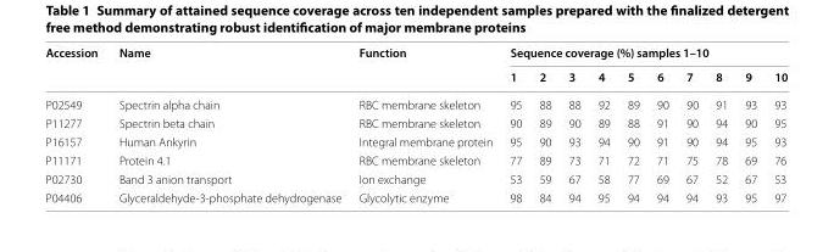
<table><thead><tr><td rowspan="2">Accession</td><td rowspan="2">Name</td><td rowspan="2">Function</td><td colspan="10">Sequence coverage (%) samples 1–10</td></tr><tr><td>1</td><td>2</td><td>3</td><td>4</td><td>5</td><td>6</td><td>7</td><td>8</td><td>9</td><td>10</td></tr></thead><tbody><tr><td>P02549</td><td>Spectrin alpha chain</td><td>RBC membrane skeleton</td><td>95</td><td>88</td><td>88</td><td>92</td><td>89</td><td>90</td><td>90</td><td>91</td><td>93</td><td>93</td></tr><tr><td>P11277</td><td>Spectrin beta chain</td><td>RBC membrane skeleton</td><td>90</td><td>89</td><td>90</td><td>89</td><td>88</td><td>91</td><td>90</td><td>94</td><td>90</td><td>95</td></tr><tr><td>P16157</td><td>Human Ankyrin</td><td>Integral membrane protein</td><td>95</td><td>90</td><td>93</td><td>94</td><td>90</td><td>91</td><td>90</td><td>94</td><td>95</td><td>93</td></tr><tr><td>P11171</td><td>Protein 4.1</td><td>RBC membrane skeleton</td><td>77</td><td>89</td><td>73</td><td>71</td><td>72</td><td>71</td><td>75</td><td>78</td><td>69</td><td>76</td></tr><tr><td>P02730</td><td>Band 3 anion transport</td><td>Ion exchange</td><td>53</td><td>59</td><td>67</td><td>58</td><td>77</td><td>69</td><td>67</td><td>52</td><td>67</td><td>53</td></tr><tr><td>P04406</td><td>Glyceraldehyde‑3‑phosphate dehydrogenase</td><td>Glycolytic enzyme</td><td>98</td><td>84</td><td>94</td><td>95</td><td>94</td><td>94</td><td>94</td><td>93</td><td>95</td><td>97</td></tr></tbody></table>